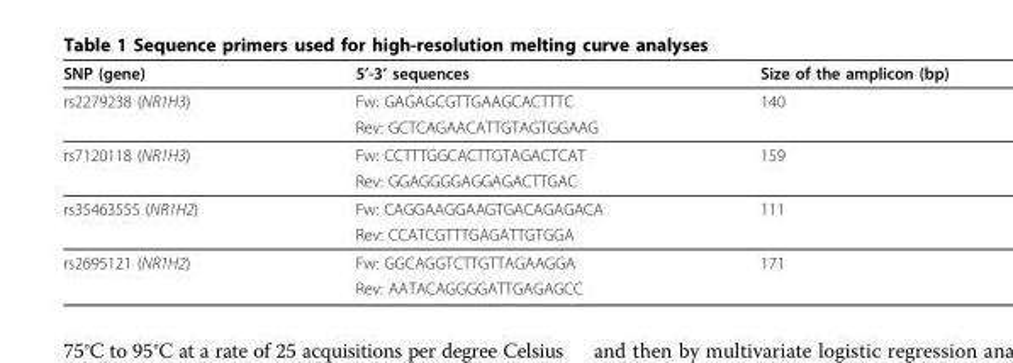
<table><thead><tr><td>SNP (gene)</td><td>5’-3’ sequences</td><td>Size of the amplicon (bp)</td></tr></thead><tbody><tr><td rowspan="2">rs2279238 (NR1H3)</td><td>Fw: GAGAGCGTTGAAGCACTTTC</td><td>140</td></tr><tr><td>Rev: GCTCAGAACATTGTAGTGGAAG</td><td></td></tr><tr><td rowspan="2">rs7120118 (NR1H3)</td><td>Fw: CCTTTGGCACTTGTAGACTCAT</td><td>159</td></tr><tr><td>Rev: GGAGGGGAGGAGACTTGAC</td><td></td></tr><tr><td rowspan="2">rs35463555 (NR1H2)</td><td>Fw: CAGGAAGGAAGTGACAGAGACA</td><td>111</td></tr><tr><td>Rev: CCATCGTTTGAGATTGTGGA</td><td></td></tr><tr><td rowspan="2">rs2695121 (NR1H2)</td><td>Fw: GGCAGGTCTTGTTAGAAGGA</td><td>171</td></tr><tr><td>Rev: AATACAGGGGATTGAGAGCC</td><td></td></tr></tbody></table>